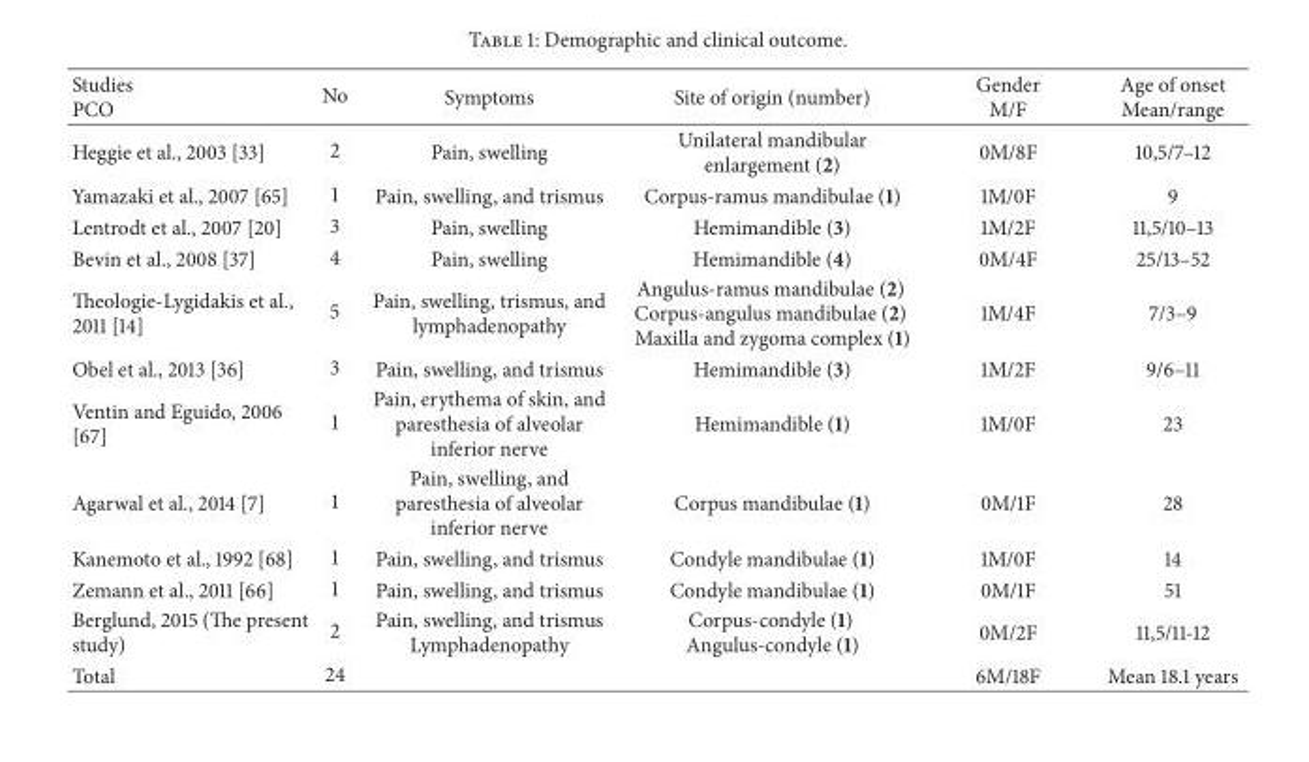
<table><thead><tr><td>Studies PCO</td><td>No</td><td>Symptoms</td><td>Site of origin (number)</td><td>Gender M/F</td><td>Age of onset Mean/range</td></tr></thead><tbody><tr><td>Heggie et al., 2003 [33]</td><td>2</td><td>Pain, swelling</td><td>Unilateral mandibular enlargement (2)</td><td>0M/8F</td><td>10,5/7–12</td></tr><tr><td>Yamazaki et al., 2007 [65]</td><td>1</td><td>Pain, swelling, and trismus</td><td>Corpus-ramus mandibulae (1)</td><td>1M/0F</td><td>9</td></tr><tr><td>Lentrodt et al., 2007 [20]</td><td>3</td><td>Pain, swelling</td><td>Hemimandible (3)</td><td>1M/2F</td><td>11,5/10–13</td></tr><tr><td>Bevin et al., 2008 [37]</td><td>4</td><td>Pain, swelling</td><td>Hemimandible (4)</td><td>0M/4F</td><td>25/13–52</td></tr><tr><td>Theologie-Lygidakis et al., 2011 [14]</td><td>5</td><td>Pain, swelling, trismus, and lymphadenopathy</td><td>Angulus-ramus mandibulae (2) Corpus-angulus mandibulae (2) Maxilla and zygoma complex (1)</td><td>1M/4F</td><td>7/3–9</td></tr><tr><td>Obel et al., 2013 [36]</td><td>3</td><td>Pain, swelling, and trismus</td><td>Hemimandible (3)</td><td>1M/2F</td><td>9/6–11</td></tr><tr><td>Ventin and Eguido, 2006 [67]</td><td>1</td><td>Pain, erythema of skin, and paresthesia of alveolar inferior nerve</td><td>Hemimandible (1)</td><td>1M/0F</td><td>23</td></tr><tr><td>Agarwal et al., 2014 [7]</td><td>1</td><td>Pain, swelling, and paresthesia of alveolar inferior nerve</td><td>Corpus mandibulae (1)</td><td>0M/1F</td><td>28</td></tr><tr><td>Kanemoto et al., 1992 [68]</td><td>1</td><td>Pain, swelling, and trismus</td><td>Condyle mandibulae (1)</td><td>1M/0F</td><td>14</td></tr><tr><td>Zemann et al., 2011 [66]</td><td>1</td><td>Pain, swelling, and trismus</td><td>Condyle mandibulae (1)</td><td>0M/1F</td><td>51</td></tr><tr><td>Berglund, 2015 (The present study)</td><td>2</td><td>Pain, swelling, and trismus Lymphadenopathy</td><td>Corpus-condyle (1) Angulus-condyle (1)</td><td>0M/2F</td><td>11,5/11-12</td></tr><tr><td>Total</td><td>24</td><td></td><td></td><td>6M/18F</td><td>Mean 18.1 years</td></tr></tbody></table>